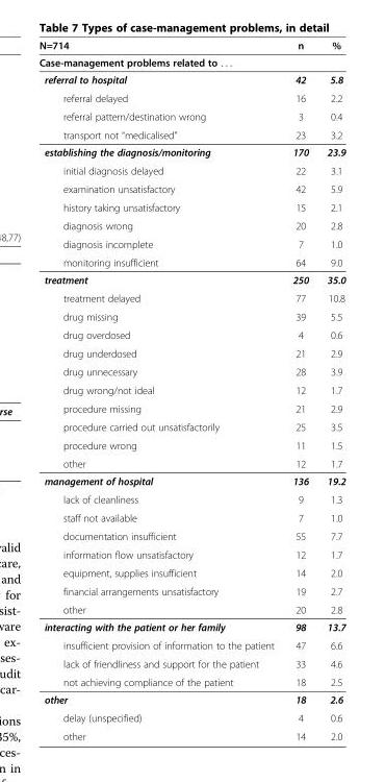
<table><thead><tr><td rowspan="2">N=714 Case-management problems related to . . .</td><td rowspan="2">n</td><td rowspan="2">%</td></tr><tr></tr></thead><tbody><tr><td>referral to hospital</td><td>42</td><td>5.8</td></tr><tr><td>referral delayed</td><td>16</td><td>2.2</td></tr><tr><td>referral pattern/destination wrong</td><td>3</td><td>0.4</td></tr><tr><td>transport not “medicalised”</td><td>23</td><td>3.2</td></tr><tr><td>establishing the diagnosis/monitoring</td><td>170</td><td>23.9</td></tr><tr><td>initial diagnosis delayed</td><td>22</td><td>3.1</td></tr><tr><td>examination unsatisfactory</td><td>42</td><td>5.9</td></tr><tr><td>history taking unsatisfactory</td><td>15</td><td>2.1</td></tr><tr><td>diagnosis wrong</td><td>20</td><td>2.8</td></tr><tr><td>diagnosis incomplete</td><td>7</td><td>1.0</td></tr><tr><td>monitoring insufficient</td><td>64</td><td>9.0</td></tr><tr><td>treatment</td><td>250</td><td>35.0</td></tr><tr><td>treatment delayed</td><td>77</td><td>10.8</td></tr><tr><td>drug missing</td><td>39</td><td>5.5</td></tr><tr><td>drug overdosed</td><td>4</td><td>0.6</td></tr><tr><td>drug underdosed</td><td>21</td><td>2.9</td></tr><tr><td>drug unnecessary</td><td>28</td><td>3.9</td></tr><tr><td>drug wrong/not ideal</td><td>12</td><td>1.7</td></tr><tr><td>procedure missing</td><td>21</td><td>2.9</td></tr><tr><td>procedure carried out unsatisfactorily</td><td>25</td><td>3.5</td></tr><tr><td>procedure wrong</td><td>11</td><td>1.5</td></tr><tr><td>other</td><td>12</td><td>1.7</td></tr><tr><td>management of hospital</td><td>136</td><td>19.2</td></tr><tr><td>lack of cleanliness</td><td>9</td><td>1.3</td></tr><tr><td>staff not available</td><td>7</td><td>1.0</td></tr><tr><td>documentation insufficient</td><td>55</td><td>7.7</td></tr><tr><td>information flow unsatisfactory</td><td>12</td><td>1.7</td></tr><tr><td>equipment, supplies insufficient</td><td>14</td><td>2.0</td></tr><tr><td>financial arrangements unsatisfactory</td><td>19</td><td>2.7</td></tr><tr><td>other</td><td>20</td><td>2.8</td></tr><tr><td>interacting with the patient or her family</td><td>98</td><td>13.7</td></tr><tr><td>insufficient provision of information to the patient</td><td>47</td><td>6.6</td></tr><tr><td>lack of friendliness and support for the patient</td><td>33</td><td>4.6</td></tr><tr><td>not achieving compliance of the patient</td><td>18</td><td>2.5</td></tr><tr><td>other</td><td>18</td><td>2.6</td></tr><tr><td>delay (unspecified)</td><td>4</td><td>0.6</td></tr><tr><td>other</td><td>14</td><td>2.0</td></tr></tbody></table>